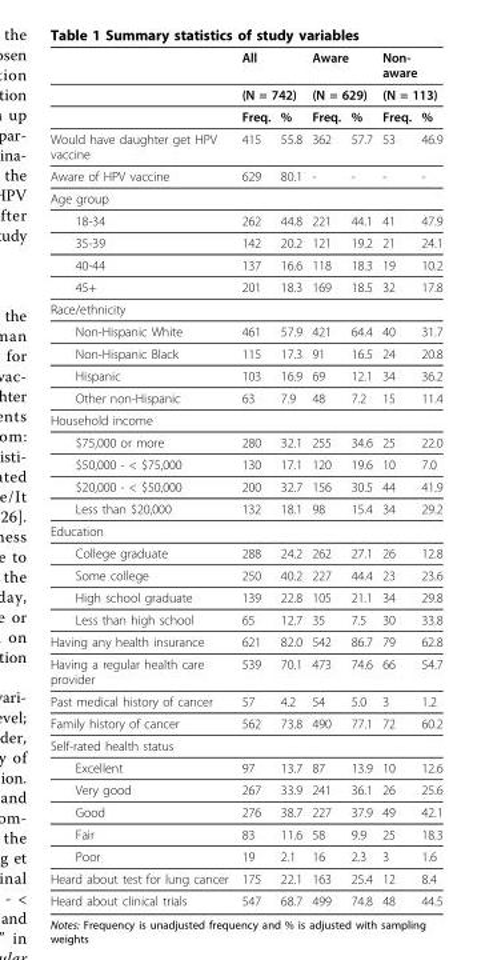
<table><thead><tr><td rowspan="3"></td><td rowspan="2" colspan="2">All (N = 742)</td><td rowspan="2" colspan="2">Aware (N = 629)</td><td rowspan="2" colspan="2">Non- aware (N = 113)</td></tr><tr></tr><tr><td>Freq.</td><td>%</td><td>Freq.</td><td>%</td><td>Freq.</td><td>%</td></tr></thead><tbody><tr><td>Would have daughter get HPV vaccine</td><td>415</td><td>55.8</td><td>362</td><td>57.7</td><td>53</td><td>46.9</td></tr><tr><td>Aware of HPV vaccine</td><td>629</td><td>80.1</td><td>-</td><td>-</td><td>-</td><td>-</td></tr><tr><td colspan="7">Age group</td></tr><tr><td>18-34</td><td>262</td><td>44.8</td><td>221</td><td>44.1</td><td>41</td><td>47.9</td></tr><tr><td>35-39</td><td>142</td><td>20.2</td><td>121</td><td>19.2</td><td>21</td><td>24.1</td></tr><tr><td>40-44</td><td>137</td><td>16.6</td><td>118</td><td>18.3</td><td>19</td><td>10.2</td></tr><tr><td>45+</td><td>201</td><td>18.3</td><td>169</td><td>18.5</td><td>32</td><td>17.8</td></tr><tr><td colspan="7">Race/ethnicity</td></tr><tr><td>Non-Hispanic White</td><td>461</td><td>57.9</td><td>421</td><td>64.4</td><td>40</td><td>31.7</td></tr><tr><td>Non-Hispanic Black</td><td>115</td><td>17.3</td><td>91</td><td>16.5</td><td>24</td><td>20.8</td></tr><tr><td>Hispanic</td><td>103</td><td>16.9</td><td>69</td><td>12.1</td><td>34</td><td>36.2</td></tr><tr><td>Other non-Hispanic</td><td>63</td><td>7.9</td><td>48</td><td>7.2</td><td>15</td><td>11.4</td></tr><tr><td colspan="7">Household income</td></tr><tr><td>$75,000 or more</td><td>280</td><td>32.1</td><td>255</td><td>34.6</td><td>25</td><td>22.0</td></tr><tr><td>$50,000 - &lt; $75,000</td><td>130</td><td>17.1</td><td>120</td><td>19.6</td><td>10</td><td>7.0</td></tr><tr><td>$20,000 - &lt; $50,000</td><td>200</td><td>32.7</td><td>156</td><td>30.5</td><td>44</td><td>41.9</td></tr><tr><td>Less than $20,000</td><td>132</td><td>18.1</td><td>98</td><td>15.4</td><td>34</td><td>29.2</td></tr><tr><td colspan="7">Education</td></tr><tr><td>College graduate</td><td>288</td><td>24.2</td><td>262</td><td>27.1</td><td>26</td><td>12.8</td></tr><tr><td>Some college</td><td>250</td><td>40.2</td><td>227</td><td>44.4</td><td>23</td><td>23.6</td></tr><tr><td>High school graduate</td><td>139</td><td>22.8</td><td>105</td><td>21.1</td><td>34</td><td>29.8</td></tr><tr><td>Less than high school</td><td>65</td><td>12.7</td><td>35</td><td>7.5</td><td>30</td><td>33.8</td></tr><tr><td>Having any health insurance</td><td>621</td><td>82.0</td><td>542</td><td>86.7</td><td>79</td><td>62.8</td></tr><tr><td>Having a regular health care provider</td><td>539</td><td>70.1</td><td>473</td><td>74.6</td><td>66</td><td>54.7</td></tr><tr><td>Past medical history of cancer</td><td>57</td><td>4.2</td><td>54</td><td>5.0</td><td>3</td><td>1.2</td></tr><tr><td>Family history of cancer</td><td>562</td><td>73.8</td><td>490</td><td>77.1</td><td>72</td><td>60.2</td></tr><tr><td colspan="7">Self-rated health status</td></tr><tr><td>Excellent</td><td>97</td><td>13.7</td><td>87</td><td>13.9</td><td>10</td><td>12.6</td></tr><tr><td>Very good</td><td>267</td><td>33.9</td><td>241</td><td>36.1</td><td>26</td><td>25.6</td></tr><tr><td>Good</td><td>276</td><td>38.7</td><td>227</td><td>37.9</td><td>49</td><td>42.1</td></tr><tr><td>Fair</td><td>83</td><td>11.6</td><td>58</td><td>9.9</td><td>25</td><td>18.3</td></tr><tr><td>Poor</td><td>19</td><td>2.1</td><td>16</td><td>2.3</td><td>3</td><td>1.6</td></tr><tr><td>Heard about test for lung cancer</td><td>175</td><td>22.1</td><td>163</td><td>25.4</td><td>12</td><td>8.4</td></tr><tr><td>Heard about clinical trials</td><td>547</td><td>68.7</td><td>499</td><td>74.8</td><td>48</td><td>44.5</td></tr></tbody></table>